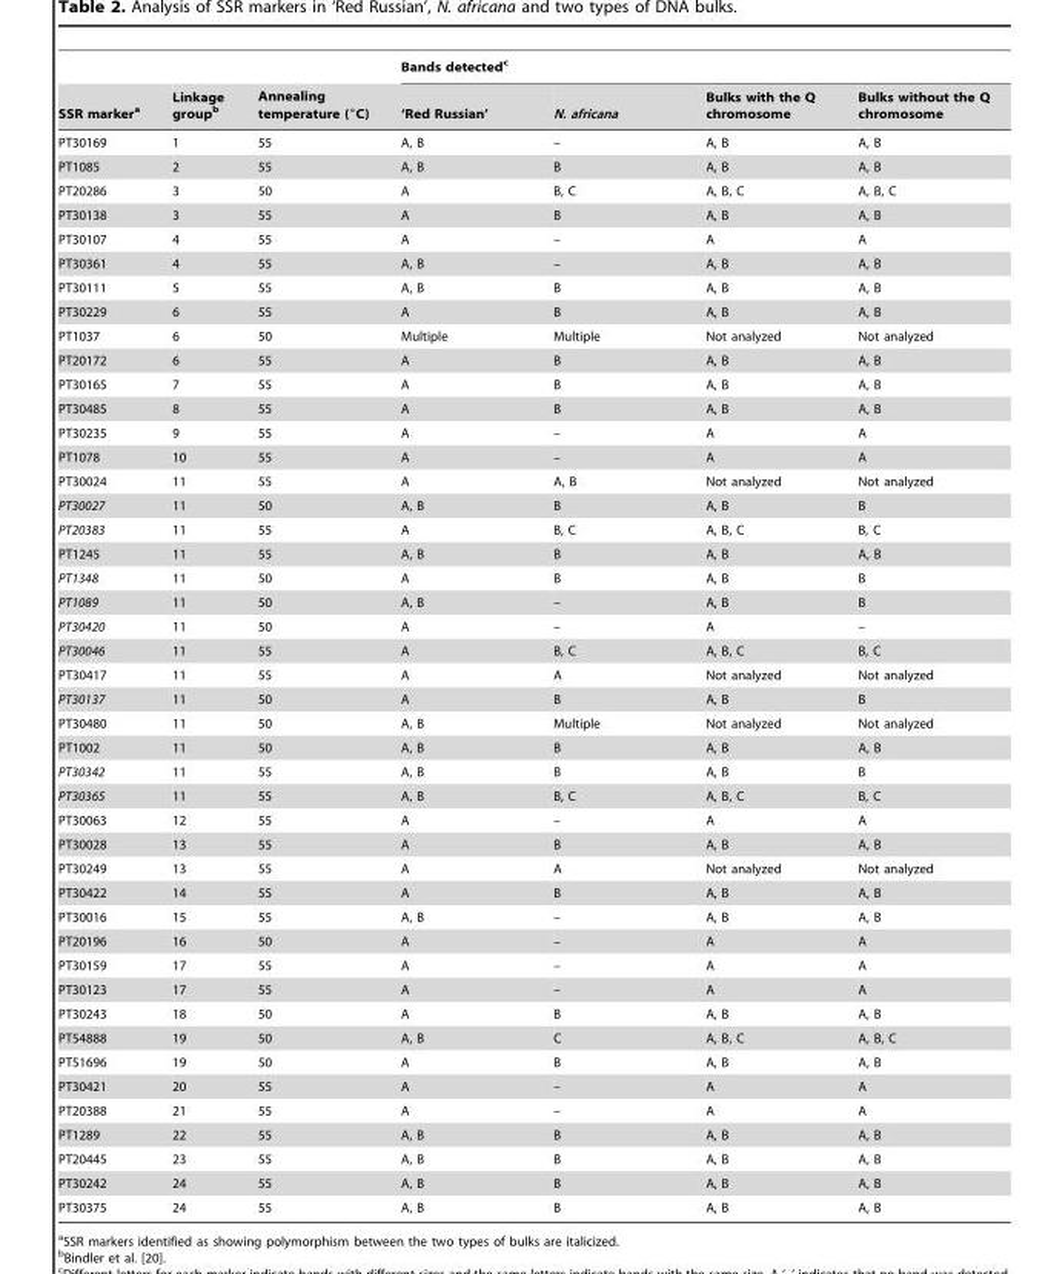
<table><thead><tr><td rowspan="2">SSR marker<sup>a</sup></td><td rowspan="2">Linkage group<sup>b</sup></td><td rowspan="2">Annealing temperature (°C)</td><td colspan="4">Bands detected<sup>c</sup></td></tr><tr><td>‘Red Russian’</td><td>N. africana</td><td>Bulks with the Q chromosome</td><td>Bulks without the Q chromosome</td></tr></thead><tbody><tr><td>PT30169</td><td>1</td><td>55</td><td>A, B</td><td>–</td><td>A, B</td><td>A, B</td></tr><tr><td>PT1085</td><td>2</td><td>55</td><td>A, B</td><td>B</td><td>A, B</td><td>A, B</td></tr><tr><td>PT20286</td><td>3</td><td>50</td><td>A</td><td>B, C</td><td>A, B, C</td><td>A, B, C</td></tr><tr><td>PT30138</td><td>3</td><td>55</td><td>A</td><td>B</td><td>A, B</td><td>A, B</td></tr><tr><td>PT30107</td><td>4</td><td>55</td><td>A</td><td>–</td><td>A</td><td>A</td></tr><tr><td>PT30361</td><td>4</td><td>55</td><td>A, B</td><td>–</td><td>A, B</td><td>A, B</td></tr><tr><td>PT30111</td><td>5</td><td>55</td><td>A, B</td><td>B</td><td>A, B</td><td>A, B</td></tr><tr><td>PT30229</td><td>6</td><td>55</td><td>A</td><td>B</td><td>A, B</td><td>A, B</td></tr><tr><td>PT1037</td><td>6</td><td>50</td><td>Multiple</td><td>Multiple</td><td>Not analyzed</td><td>Not analyzed</td></tr><tr><td>PT20172</td><td>6</td><td>55</td><td>A</td><td>B</td><td>A, B</td><td>A, B</td></tr><tr><td>PT30165</td><td>7</td><td>55</td><td>A</td><td>B</td><td>A, B</td><td>A, B</td></tr><tr><td>PT30485</td><td>8</td><td>55</td><td>A</td><td>B</td><td>A, B</td><td>A, B</td></tr><tr><td>PT30235</td><td>9</td><td>55</td><td>A</td><td>–</td><td>A</td><td>A</td></tr><tr><td>PT1078</td><td>10</td><td>55</td><td>A</td><td>–</td><td>A</td><td>A</td></tr><tr><td>PT30024</td><td>11</td><td>55</td><td>A</td><td>A, B</td><td>Not analyzed</td><td>Not analyzed</td></tr><tr><td>PT30027</td><td>11</td><td>50</td><td>A, B</td><td>B</td><td>A, B</td><td>B</td></tr><tr><td>PT20383</td><td>11</td><td>55</td><td>A</td><td>B, C</td><td>A, B, C</td><td>B, C</td></tr><tr><td>PT1245</td><td>11</td><td>55</td><td>A, B</td><td>B</td><td>A, B</td><td>A, B</td></tr><tr><td>PT1348</td><td>11</td><td>50</td><td>A</td><td>B</td><td>A, B</td><td>B</td></tr><tr><td>PT1089</td><td>11</td><td>50</td><td>A, B</td><td>–</td><td>A, B</td><td>B</td></tr><tr><td>PT30420</td><td>11</td><td>50</td><td>A</td><td>–</td><td>A</td><td>–</td></tr><tr><td>PT30046</td><td>11</td><td>55</td><td>A</td><td>B, C</td><td>A, B, C</td><td>B, C</td></tr><tr><td>PT30417</td><td>11</td><td>55</td><td>A</td><td>A</td><td>Not analyzed</td><td>Not analyzed</td></tr><tr><td>PT30137</td><td>11</td><td>50</td><td>A</td><td>B</td><td>A, B</td><td>B</td></tr><tr><td>PT30480</td><td>11</td><td>50</td><td>A, B</td><td>Multiple</td><td>Not analyzed</td><td>Not analyzed</td></tr><tr><td>PT1002</td><td>11</td><td>50</td><td>A, B</td><td>B</td><td>A, B</td><td>A, B</td></tr><tr><td>PT30342</td><td>11</td><td>55</td><td>A, B</td><td>B</td><td>A, B</td><td>B</td></tr><tr><td>PT30365</td><td>11</td><td>55</td><td>A, B</td><td>B, C</td><td>A, B, C</td><td>B, C</td></tr><tr><td>PT30063</td><td>12</td><td>55</td><td>A</td><td>–</td><td>A</td><td>A</td></tr><tr><td>PT30028</td><td>13</td><td>55</td><td>A</td><td>B</td><td>A, B</td><td>A, B</td></tr><tr><td>PT30249</td><td>13</td><td>55</td><td>A</td><td>A</td><td>Not analyzed</td><td>Not analyzed</td></tr><tr><td>PT30422</td><td>14</td><td>55</td><td>A</td><td>B</td><td>A, B</td><td>A, B</td></tr><tr><td>PT30016</td><td>15</td><td>55</td><td>A, B</td><td>–</td><td>A, B</td><td>A, B</td></tr><tr><td>PT20196</td><td>16</td><td>50</td><td>A</td><td>–</td><td>A</td><td>A</td></tr><tr><td>PT30159</td><td>17</td><td>55</td><td>A</td><td>–</td><td>A</td><td>A</td></tr><tr><td>PT30123</td><td>17</td><td>55</td><td>A</td><td>–</td><td>A</td><td>A</td></tr><tr><td>PT30243</td><td>18</td><td>50</td><td>A</td><td>B</td><td>A, B</td><td>A, B</td></tr><tr><td>PT54888</td><td>19</td><td>50</td><td>A, B</td><td>C</td><td>A, B, C</td><td>A, B, C</td></tr><tr><td>PT51696</td><td>19</td><td>50</td><td>A</td><td>B</td><td>A, B</td><td>A, B</td></tr><tr><td>PT30421</td><td>20</td><td>55</td><td>A</td><td>–</td><td>A</td><td>A</td></tr><tr><td>PT20388</td><td>21</td><td>55</td><td>A</td><td>–</td><td>A</td><td>A</td></tr><tr><td>PT1289</td><td>22</td><td>55</td><td>A, B</td><td>B</td><td>A, B</td><td>A, B</td></tr><tr><td>PT20445</td><td>23</td><td>55</td><td>A, B</td><td>B</td><td>A, B</td><td>A, B</td></tr><tr><td>PT30242</td><td>24</td><td>55</td><td>A, B</td><td>B</td><td>A, B</td><td>A, B</td></tr><tr><td>PT30375</td><td>24</td><td>55</td><td>A, B</td><td>B</td><td>A, B</td><td>A, B</td></tr></tbody></table>